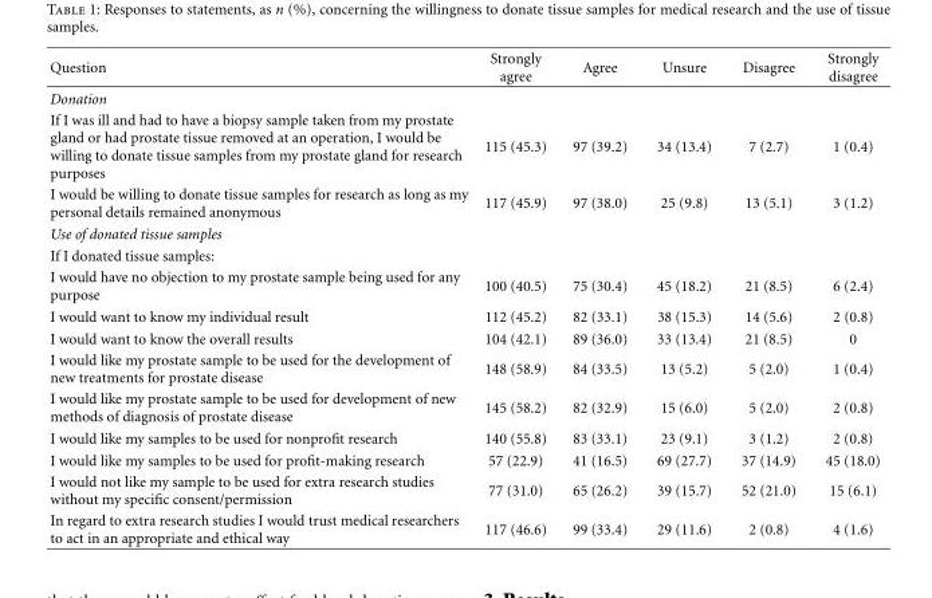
<table><thead><tr><td>Question</td><td>Strongly agree</td><td>Agree</td><td>Unsure</td><td>Disagree</td><td>Strongly disagree</td></tr></thead><tbody><tr><td colspan="6">Donation</td></tr><tr><td>If I was ill and had to have a biopsy sample taken from my prostate gland or had prostate tissue removed at an operation, I would be willing to donate tissue samples from my prostate gland for research purposes</td><td>115 (45.3)</td><td>97 (39.2)</td><td>34 (13.4)</td><td>7 (2.7)</td><td>1 (0.4)</td></tr><tr><td>I would be willing to donate tissue samples for research as long as my personal details remained anonymous</td><td>117 (45.9)</td><td>97 (38.0)</td><td>25 (9.8)</td><td>13 (5.1)</td><td>3 (1.2)</td></tr><tr><td colspan="6">Use of donated tissue samples</td></tr><tr><td colspan="6">If I donated tissue samples:</td></tr><tr><td>I would have no objection to my prostate sample being used for any purpose</td><td>100 (40.5)</td><td>75 (30.4)</td><td>45 (18.2)</td><td>21 (8.5)</td><td>6 (2.4)</td></tr><tr><td>I would want to know my individual result</td><td>112 (45.2)</td><td>82 (33.1)</td><td>38 (15.3)</td><td>14 (5.6)</td><td>2 (0.8)</td></tr><tr><td>I would want to know the overall results</td><td>104 (42.1)</td><td>89 (36.0)</td><td>33 (13.4)</td><td>21 (8.5)</td><td>0</td></tr><tr><td>I would like my prostate sample to be used for the development of new treatments for prostate disease</td><td>148 (58.9)</td><td>84 (33.5)</td><td>13 (5.2)</td><td>5 (2.0)</td><td>1 (0.4)</td></tr><tr><td>I would like my prostate sample to be used for development of new methods of diagnosis of prostate disease</td><td>145 (58.2)</td><td>82 (32.9)</td><td>15 (6.0)</td><td>5 (2.0)</td><td>2 (0.8)</td></tr><tr><td>I would like my samples to be used for nonprofit research</td><td>140 (55.8)</td><td>83 (33.1)</td><td>23 (9.1)</td><td>3 (1.2)</td><td>2 (0.8)</td></tr><tr><td>I would like my samples to be used for profit-making research</td><td>57 (22.9)</td><td>41 (16.5)</td><td>69 (27.7)</td><td>37 (14.9)</td><td>45 (18.0)</td></tr><tr><td>I would not like my sample to be used for extra research studies without my specific consent/permission</td><td>77 (31.0)</td><td>65 (26.2)</td><td>39 (15.7)</td><td>52 (21.0)</td><td>15 (6.1)</td></tr><tr><td>In regard to extra research studies I would trust medical researchers to act in an appropriate and ethical way</td><td>117 (46.6)</td><td>99 (33.4)</td><td>29 (11.6)</td><td>2 (0.8)</td><td>4 (1.6)</td></tr></tbody></table>